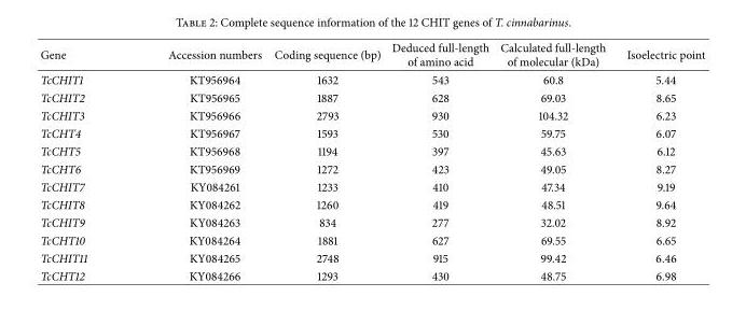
<table><thead><tr><td>Gene</td><td>Accession numbers</td><td>Coding sequence (bp)</td><td>Deduced full-length of amino acid</td><td>Calculated full-length of molecular (kDa)</td><td>Isoelectric point</td></tr></thead><tbody><tr><td>TcCHIT1</td><td>KT956964</td><td>1632</td><td>543</td><td>60.8</td><td>5.44</td></tr><tr><td>TcCHIT2</td><td>KT956965</td><td>1887</td><td>628</td><td>69.03</td><td>8.65</td></tr><tr><td>TcCHIT3</td><td>KT956966</td><td>2793</td><td>930</td><td>104.32</td><td>6.23</td></tr><tr><td>TcCHT4</td><td>KT956967</td><td>1593</td><td>530</td><td>59.75</td><td>6.07</td></tr><tr><td>TcCHT5</td><td>KT956968</td><td>1194</td><td>397</td><td>45.63</td><td>6.12</td></tr><tr><td>TcCHT6</td><td>KT956969</td><td>1272</td><td>423</td><td>49.05</td><td>8.27</td></tr><tr><td>TcCHIT7</td><td>KY084261</td><td>1233</td><td>410</td><td>47.34</td><td>9.19</td></tr><tr><td>TcCHIT8</td><td>KY084262</td><td>1260</td><td>419</td><td>48.51</td><td>9.64</td></tr><tr><td>TcCHIT9</td><td>KY084263</td><td>834</td><td>277</td><td>32.02</td><td>8.92</td></tr><tr><td>TcCHT10</td><td>KY084264</td><td>1881</td><td>627</td><td>69.55</td><td>6.65</td></tr><tr><td>TcCHIT11</td><td>KY084265</td><td>2748</td><td>915</td><td>99.42</td><td>6.46</td></tr><tr><td>TcCHT12</td><td>KY084266</td><td>1293</td><td>430</td><td>48.75</td><td>6.98</td></tr></tbody></table>